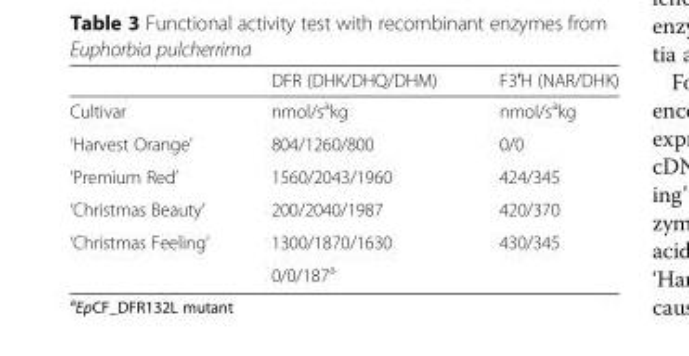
<table><thead><tr><td></td><td>DFR (DHK/DHQ/DHM)</td><td>F3′H (NAR/DHK)</td></tr></thead><tbody><tr><td>Cultivar</td><td>nmol/s<sup>a</sup>kg</td><td>nmol/s<sup>a</sup>kg</td></tr><tr><td>‘Harvest Orange’</td><td>804/1260/800</td><td>0/0</td></tr><tr><td>‘Premium Red’</td><td>1560/2043/1960</td><td>424/345</td></tr><tr><td>‘Christmas Beauty’</td><td>200/2040/1987</td><td>420/370</td></tr><tr><td rowspan="2">‘Christmas Feeling’</td><td>1300/1870/1630</td><td>430/345</td></tr><tr><td>0/0/187<sup>a</sup></td><td></td></tr></tbody></table>